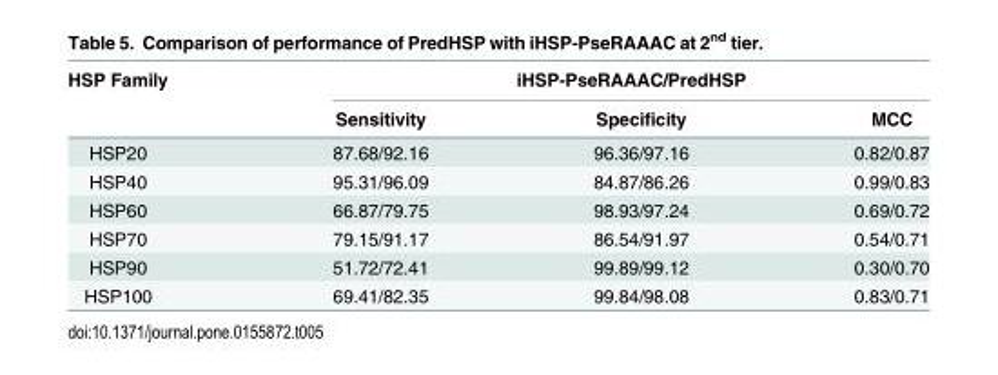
<table><thead><tr><td rowspan="2">HSP Family</td><td colspan="3">iHSP-PseRAAAC/PredHSP</td></tr><tr><td>Sensitivity</td><td>Specificity</td><td>MCC</td></tr></thead><tbody><tr><td>HSP20</td><td>87.68/92.16</td><td>96.36/97.16</td><td>0.82/0.87</td></tr><tr><td>HSP40</td><td>95.31/96.09</td><td>84.87/86.26</td><td>0.99/0.83</td></tr><tr><td>HSP60</td><td>66.87/79.75</td><td>98.93/97.24</td><td>0.69/0.72</td></tr><tr><td>HSP70</td><td>79.15/91.17</td><td>86.54/91.97</td><td>0.54/0.71</td></tr><tr><td>HSP90</td><td>51.72/72.41</td><td>99.89/99.12</td><td>0.30/0.70</td></tr><tr><td>HSP100</td><td>69.41/82.35</td><td>99.84/98.08</td><td>0.83/0.71</td></tr></tbody></table>